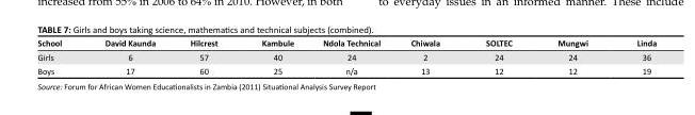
<table><thead><tr><td>School</td><td>David Kaunda</td><td>Hilcrest</td><td>Kambule</td><td>Ndola Technical</td><td>Chiwala</td><td>SOLTEC</td><td>Mungwi</td><td>Linda</td></tr></thead><tbody><tr><td>Girls</td><td>6</td><td>57</td><td>40</td><td>24</td><td>2</td><td>24</td><td>24</td><td>36</td></tr><tr><td>Boys</td><td>17</td><td>60</td><td>25</td><td>n/a</td><td>13</td><td>12</td><td>12</td><td>19</td></tr></tbody></table>